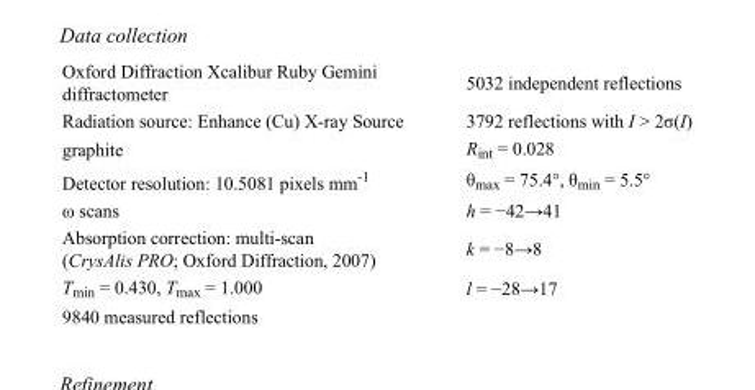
<table><tbody><tr><td>Oxford Diffraction Xcalibur Ruby Gemini diffractometer</td><td>5032 independent reflections</td></tr><tr><td>Radiation source: Enhance (Cu) X-ray Source</td><td>3792 reflections with I &gt; 2σ(I)</td></tr><tr><td>graphite</td><td>R<sub>int</sub> = 0.028</td></tr><tr><td>Detector resolution: 10.5081 pixels mm<sup>-1</sup></td><td>θ<sub>max</sub> = 75.4°, θ<sub>min</sub> = 5.5°</td></tr><tr><td>ω scans</td><td>h = −42→41</td></tr><tr><td>Absorption correction: multi-scan (CrysAlis PRO; Oxford Diffraction, 2007)</td><td>k = −8→8</td></tr><tr><td>T<sub>min</sub> = 0.430, T<sub>max</sub> = 1.000</td><td>l = −28→17</td></tr><tr><td>9840 measured reflections</td><td></td></tr></tbody></table>